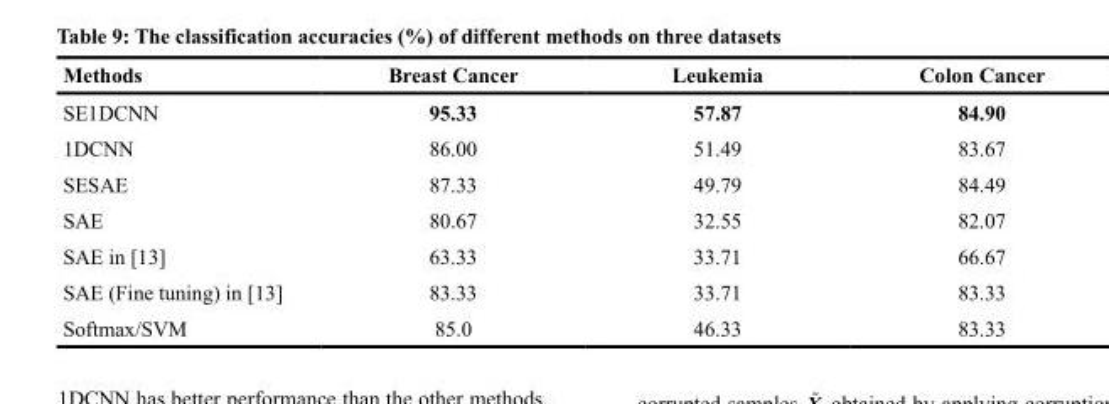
<table><thead><tr><td>Methods</td><td>Breast Cancer</td><td>Leukemia</td><td>Colon Cancer</td></tr></thead><tbody><tr><td>SE1DCNN</td><td>95.33</td><td>57.87</td><td>84.90</td></tr><tr><td>1DCNN</td><td>86.00</td><td>51.49</td><td>83.67</td></tr><tr><td>SESAE</td><td>87.33</td><td>49.79</td><td>84.49</td></tr><tr><td>SAE</td><td>80.67</td><td>32.55</td><td>82.07</td></tr><tr><td>SAE in [13]</td><td>63.33</td><td>33.71</td><td>66.67</td></tr><tr><td>SAE (Fine tuning) in [13]</td><td>83.33</td><td>33.71</td><td>83.33</td></tr><tr><td>Softmax/SVM</td><td>85.0</td><td>46.33</td><td>83.33</td></tr></tbody></table>